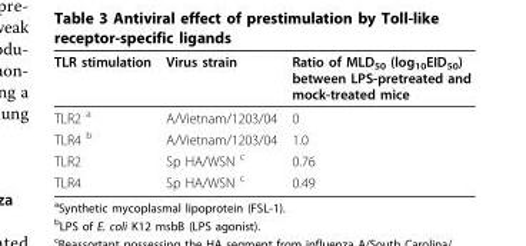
<table><thead><tr><td>TLR stimulation</td><td>Virus strain</td><td>Ratio of MLD<sub>50</sub> (log<sub>10</sub>EID<sub>50</sub>) between LPS-pretreated and mock-treated mice</td></tr></thead><tbody><tr><td>TLR2 <sup>a</sup></td><td>A/Vietnam/1203/04</td><td>0</td></tr><tr><td>TLR4 <sup>b</sup></td><td>A/Vietnam/1203/04</td><td>1.0</td></tr><tr><td>TLR2</td><td>Sp HA/WSN <sup>c</sup></td><td>0.76</td></tr><tr><td>TLR4</td><td>Sp HA/WSN <sup>c</sup></td><td>0.49</td></tr></tbody></table>